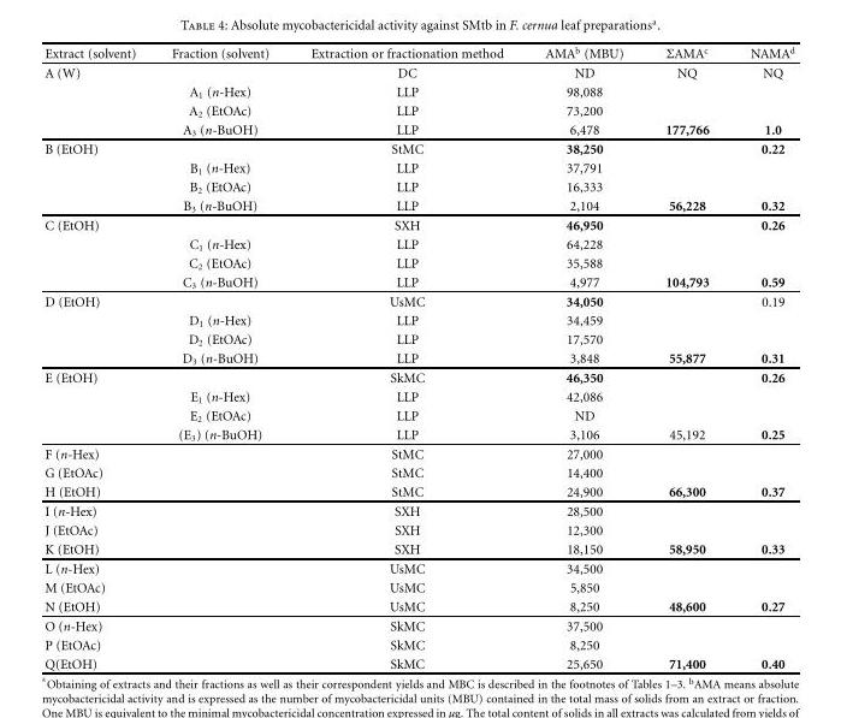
<table><thead><tr><td>Extract (solvent)</td><td>Fraction (solvent)</td><td>Extraction or fractionation method</td><td>AMA<sup>b</sup> (MBU)</td><td>ΣAMA<sup>c</sup></td><td>NAMA<sup>d</sup></td></tr></thead><tbody><tr><td rowspan="4">A (W)</td><td></td><td>DC</td><td>ND</td><td>NQ</td><td>NQ</td></tr><tr><td>A<sub>1</sub> (n-Hex)</td><td>LLP</td><td>98,088</td><td></td><td></td></tr><tr><td>A<sub>2</sub> (EtOAc)</td><td>LLP</td><td>73,200</td><td></td><td></td></tr><tr><td>A<sub>3</sub> (n-BuOH)</td><td>LLP</td><td>6,478</td><td>177,766</td><td>1.0</td></tr><tr><td rowspan="4">B (EtOH)</td><td></td><td>StMC</td><td>38,250</td><td></td><td>0.22</td></tr><tr><td>B<sub>1</sub> (n-Hex)</td><td>LLP</td><td>37,791</td><td></td><td></td></tr><tr><td>B<sub>2</sub> (EtOAc)</td><td>LLP</td><td>16,333</td><td></td><td></td></tr><tr><td>B<sub>3</sub> (n-BuOH)</td><td>LLP</td><td>2,104</td><td>56,228</td><td>0.32</td></tr><tr><td rowspan="4">C (EtOH)</td><td></td><td>SXH</td><td>46,950</td><td></td><td>0.26</td></tr><tr><td>C<sub>1</sub> (n-Hex)</td><td>LLP</td><td>64,228</td><td></td><td></td></tr><tr><td>C<sub>2</sub> (EtOAc)</td><td>LLP</td><td>35,588</td><td></td><td></td></tr><tr><td>C<sub>3</sub> (n-BuOH)</td><td>LLP</td><td>4,977</td><td>104,793</td><td>0.59</td></tr><tr><td rowspan="4">D (EtOH)</td><td></td><td>UsMC</td><td>34,050</td><td></td><td>0.19</td></tr><tr><td>D<sub>1</sub> (n-Hex)</td><td>LLP</td><td>34,459</td><td></td><td></td></tr><tr><td>D<sub>2</sub> (EtOAc)</td><td>LLP</td><td>17,570</td><td></td><td></td></tr><tr><td>D<sub>3</sub> (n-BuOH)</td><td>LLP</td><td>3,848</td><td>55,877</td><td>0.31</td></tr><tr><td rowspan="4">E (EtOH)</td><td></td><td>SkMC</td><td>46,350</td><td></td><td>0.26</td></tr><tr><td>E<sub>1</sub> (n-Hex)</td><td>LLP</td><td>42,086</td><td></td><td></td></tr><tr><td>E<sub>2</sub> (EtOAc)</td><td>LLP</td><td>ND</td><td></td><td></td></tr><tr><td>(E<sub>3</sub>) (n-BuOH)</td><td>LLP</td><td>3,106</td><td>45,192</td><td>0.25</td></tr><tr><td>F (n-Hex)</td><td></td><td>StMC</td><td>27,000</td><td></td><td></td></tr><tr><td>G (EtOAc)</td><td></td><td>StMC</td><td>14,400</td><td></td><td></td></tr><tr><td>H (EtOH)</td><td></td><td>StMC</td><td>24,900</td><td>66,300</td><td>0.37</td></tr><tr><td>I (n-Hex)</td><td></td><td>SXH</td><td>28,500</td><td></td><td></td></tr><tr><td>J (EtOAc)</td><td></td><td>SXH</td><td>12,300</td><td></td><td></td></tr><tr><td>K (EtOH)</td><td></td><td>SXH</td><td>18,150</td><td>58,950</td><td>0.33</td></tr><tr><td>L (n-Hex)</td><td></td><td>UsMC</td><td>34,500</td><td></td><td></td></tr><tr><td>M (EtOAc)</td><td></td><td>UsMC</td><td>5,850</td><td></td><td></td></tr><tr><td>N (EtOH)</td><td></td><td>UsMC</td><td>8,250</td><td>48,600</td><td>0.27</td></tr><tr><td>O (n-Hex)</td><td></td><td>SkMC</td><td>37,500</td><td></td><td></td></tr><tr><td>P (EtOAc)</td><td></td><td>SkMC</td><td>8,250</td><td></td><td></td></tr><tr><td>Q(EtOH)</td><td></td><td>SkMC</td><td>25,650</td><td>71,400</td><td>0.40</td></tr></tbody></table>